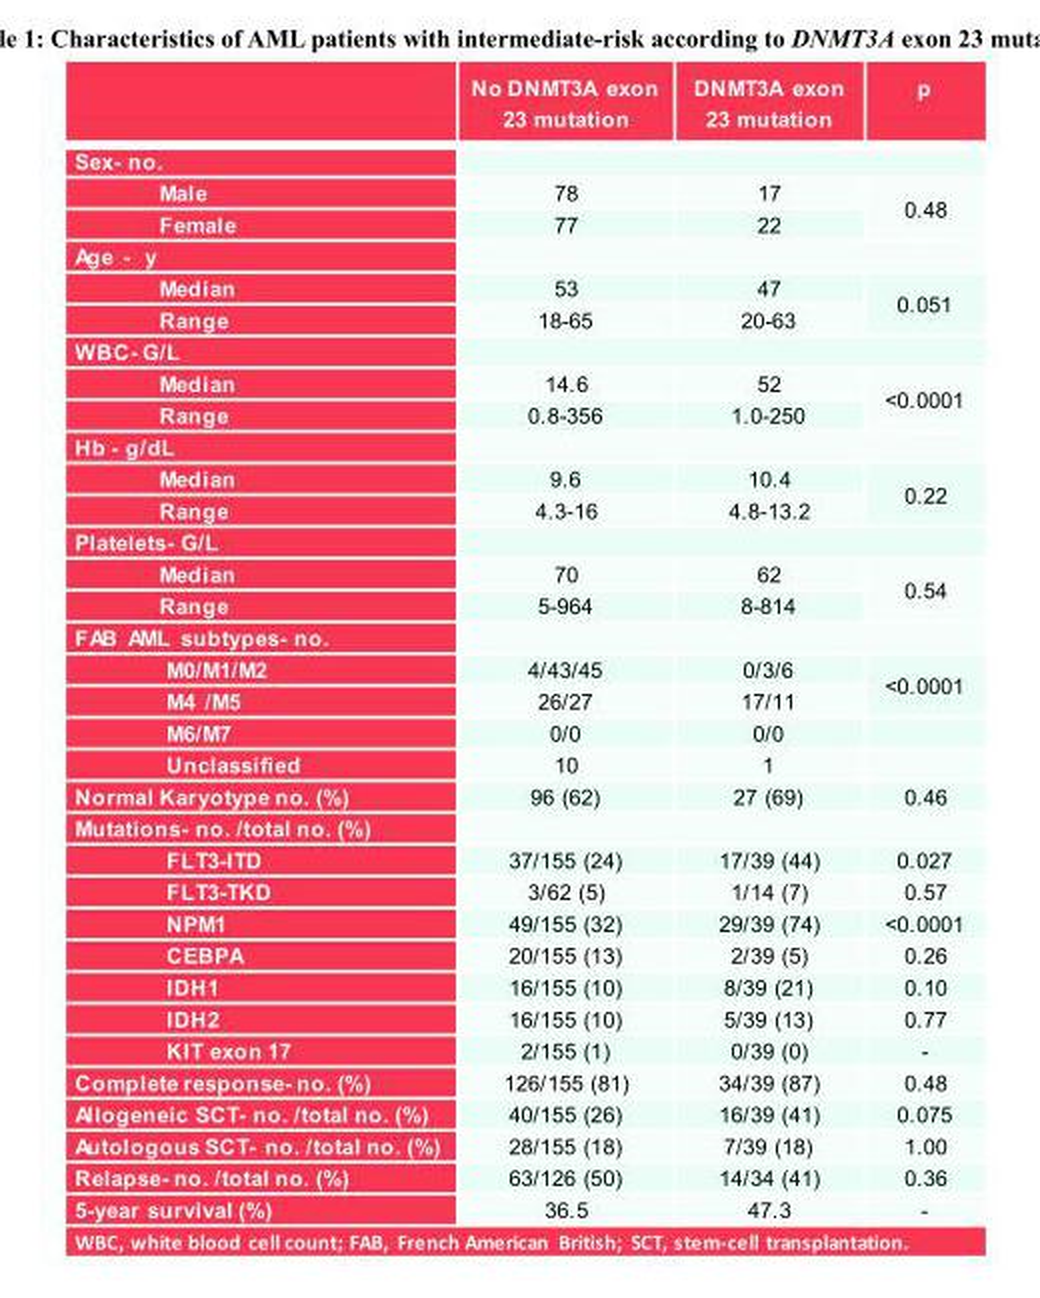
<table><thead><tr><td></td><td>No DNMT3A exon 23 mutation</td><td>DNMT3A exon 23 mutation</td><td>p</td></tr></thead><tbody><tr><td colspan="4">Sex- no.</td></tr><tr><td>Male</td><td>78</td><td>17</td><td rowspan="2">0.48</td></tr><tr><td>Female</td><td>77</td><td>22</td></tr><tr><td colspan="4">Age - y</td></tr><tr><td>Median</td><td>53</td><td>47</td><td rowspan="2">0.051</td></tr><tr><td>Range</td><td>18-65</td><td>20-63</td></tr><tr><td colspan="4">WBC- G/L</td></tr><tr><td>Median</td><td>14.6</td><td>52</td><td rowspan="2">&lt;0.0001</td></tr><tr><td>Range</td><td>0.8-356</td><td>1.0-250</td></tr><tr><td colspan="4">Hb - g/dL</td></tr><tr><td>Median</td><td>9.6</td><td>10.4</td><td rowspan="2">0.22</td></tr><tr><td>Range</td><td>4.3-16</td><td>4.8-13.2</td></tr><tr><td colspan="4">Platelets- G/L</td></tr><tr><td>Median</td><td>70</td><td>62</td><td rowspan="2">0.54</td></tr><tr><td>Range</td><td>5-964</td><td>8-814</td></tr><tr><td colspan="4">FAB AML subtypes- no.</td></tr><tr><td>M0/M1/M2</td><td>4/43/45</td><td>0/3/6</td><td rowspan="2">&lt;0.0001</td></tr><tr><td>M4 /M5</td><td>26/27</td><td>17/11</td></tr><tr><td>M6/M7</td><td>0/0</td><td>0/0</td><td></td></tr><tr><td>Unclassified</td><td>10</td><td>1</td><td></td></tr><tr><td>Normal Karyotype no. (%)</td><td>96 (62)</td><td>27 (69)</td><td>0.46</td></tr><tr><td colspan="4">Mutations- no. /total no. (%)</td></tr><tr><td>FLT3-ITD</td><td>37/155 (24)</td><td>17/39 (44)</td><td>0.027</td></tr><tr><td>FLT3-TKD</td><td>3/62 (5)</td><td>1/14 (7)</td><td>0.57</td></tr><tr><td>NPM1</td><td>49/155 (32)</td><td>29/39 (74)</td><td>&lt;0.0001</td></tr><tr><td>CEBPA</td><td>20/155 (13)</td><td>2/39 (5)</td><td>0.26</td></tr><tr><td>IDH1</td><td>16/155 (10)</td><td>8/39 (21)</td><td>0.10</td></tr><tr><td>IDH2</td><td>16/155 (10)</td><td>5/39 (13)</td><td>0.77</td></tr><tr><td>KIT exon 17</td><td>2/155 (1)</td><td>0/39 (0)</td><td>-</td></tr><tr><td>Complete response- no. (%)</td><td>126/155 (81)</td><td>34/39 (87)</td><td>0.48</td></tr><tr><td>Allogeneic SCT- no. /total no. (%)</td><td>40/155 (26)</td><td>16/39 (41)</td><td>0.075</td></tr><tr><td>Autologous SCT- no. /total no. (%)</td><td>28/155 (18)</td><td>7/39 (18)</td><td>1.00</td></tr><tr><td>Relapse- no. /total no. (%)</td><td>63/126 (50)</td><td>14/34 (41)</td><td>0.36</td></tr><tr><td>5-year survival (%)</td><td>36.5</td><td>47.3</td><td>-</td></tr></tbody></table>